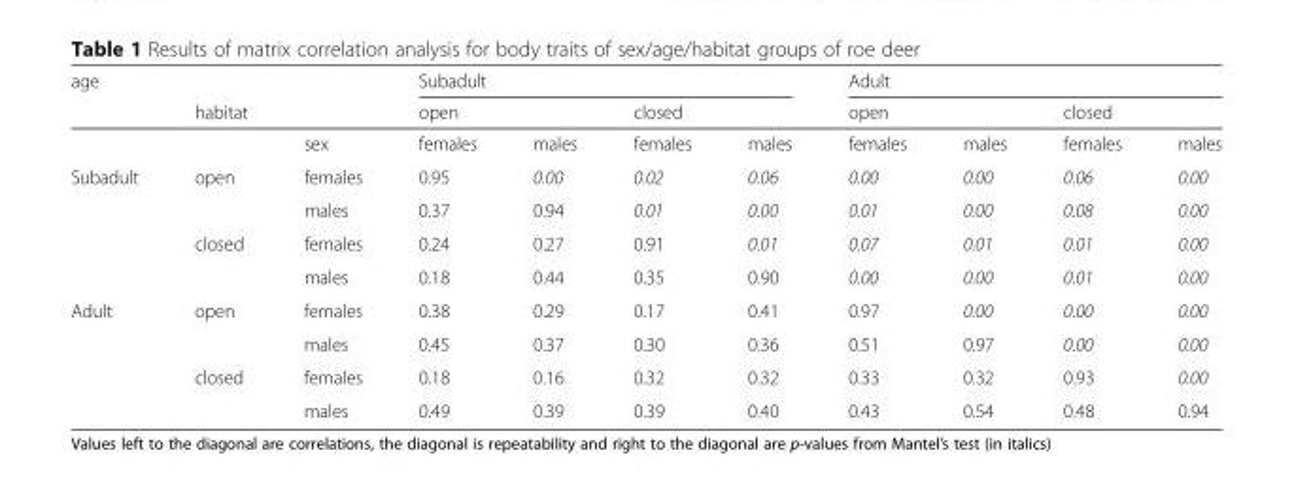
<table><thead><tr><td rowspan="3">age</td><td rowspan="3">habitat</td><td rowspan="3">sex</td><td colspan="4">Subadult</td><td colspan="4">Adult</td></tr><tr><td colspan="2">open</td><td colspan="2">closed</td><td colspan="2">open</td><td colspan="2">closed</td></tr><tr><td>females</td><td>males</td><td>females</td><td>males</td><td>females</td><td>males</td><td>females</td><td>males</td></tr></thead><tbody><tr><td rowspan="4">Subadult</td><td rowspan="2">open</td><td>females</td><td>0.95</td><td>0.00</td><td>0.02</td><td>0.06</td><td>0.00</td><td>0.00</td><td>0.06</td><td>0.00</td></tr><tr><td>males</td><td>0.37</td><td>0.94</td><td>0.01</td><td>0.00</td><td>0.01</td><td>0.00</td><td>0.08</td><td>0.00</td></tr><tr><td rowspan="2">closed</td><td>females</td><td>0.24</td><td>0.27</td><td>0.91</td><td>0.01</td><td>0.07</td><td>0.01</td><td>0.01</td><td>0.00</td></tr><tr><td>males</td><td>0.18</td><td>0.44</td><td>0.35</td><td>0.90</td><td>0.00</td><td>0.00</td><td>0.01</td><td>0.00</td></tr><tr><td rowspan="4">Adult</td><td rowspan="2">open</td><td>females</td><td>0.38</td><td>0.29</td><td>0.17</td><td>0.41</td><td>0.97</td><td>0.00</td><td>0.00</td><td>0.00</td></tr><tr><td>males</td><td>0.45</td><td>0.37</td><td>0.30</td><td>0.36</td><td>0.51</td><td>0.97</td><td>0.00</td><td>0.00</td></tr><tr><td rowspan="2">closed</td><td>females</td><td>0.18</td><td>0.16</td><td>0.32</td><td>0.32</td><td>0.33</td><td>0.32</td><td>0.93</td><td>0.00</td></tr><tr><td>males</td><td>0.49</td><td>0.39</td><td>0.39</td><td>0.40</td><td>0.43</td><td>0.54</td><td>0.48</td><td>0.94</td></tr></tbody></table>